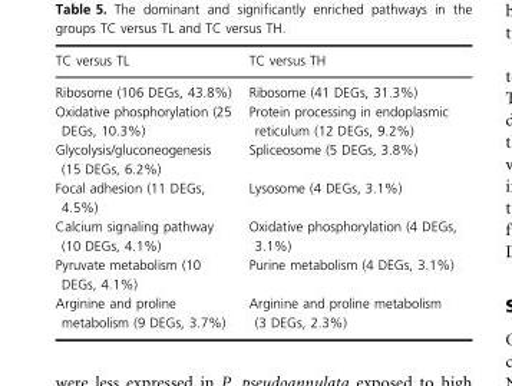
<table><thead><tr><td>TC versus TL</td><td>TC versus TH</td></tr></thead><tbody><tr><td>Ribosome (106 DEGs, 43.8%)</td><td>Ribosome (41 DEGs, 31.3%)</td></tr><tr><td>Oxidative phosphorylation (25 DEGs, 10.3%)</td><td>Protein processing in endoplasmic reticulum (12 DEGs, 9.2%)</td></tr><tr><td>Glycolysis/gluconeogenesis (15 DEGs, 6.2%)</td><td>Spliceosome (5 DEGs, 3.8%)</td></tr><tr><td>Focal adhesion (11 DEGs, 4.5%)</td><td>Lysosome (4 DEGs, 3.1%)</td></tr><tr><td>Calcium signaling pathway (10 DEGs, 4.1%)</td><td>Oxidative phosphorylation (4 DEGs, 3.1%)</td></tr><tr><td>Pyruvate metabolism (10 DEGs, 4.1%)</td><td>Purine metabolism (4 DEGs, 3.1%)</td></tr><tr><td>Arginine and proline metabolism (9 DEGs, 3.7%)</td><td>Arginine and proline metabolism (3 DEGs, 2.3%)</td></tr></tbody></table>